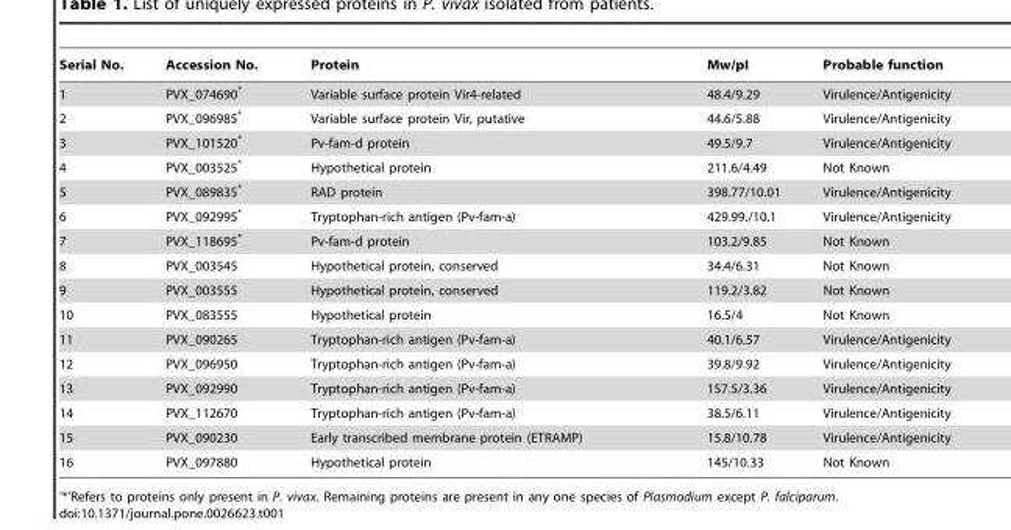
<table><thead><tr><td>Serial No.</td><td>Accession No.</td><td>Protein</td><td>Mw/pI</td><td>Probable function</td></tr></thead><tbody><tr><td>1</td><td>PVX_074690*</td><td>Variable surface protein Vir4-related</td><td>48.4/9.29</td><td>Virulence/Antigenicity</td></tr><tr><td>2</td><td>PVX_096985*</td><td>Variable surface protein Vir, putative</td><td>44.6/5.88</td><td>Virulence/Antigenicity</td></tr><tr><td>3</td><td>PVX_101520*</td><td>Pv-fam-d protein</td><td>49.5/9.7</td><td>Virulence/Antigenicity</td></tr><tr><td>4</td><td>PVX_003525*</td><td>Hypothetical protein</td><td>211.6/4.49</td><td>Not Known</td></tr><tr><td>5</td><td>PVX_089835*</td><td>RAD protein</td><td>398.77/10.01</td><td>Virulence/Antigenicity</td></tr><tr><td>6</td><td>PVX_092995*</td><td>Tryptophan-rich antigen (Pv-fam-a)</td><td>429.99./10.1</td><td>Virulence/Antigenicity</td></tr><tr><td>7</td><td>PVX_118695*</td><td>Pv-fam-d protein</td><td>103.2/9.85</td><td>Not Known</td></tr><tr><td>8</td><td>PVX_003545</td><td>Hypothetical protein, conserved</td><td>34.4/6.31</td><td>Not Known</td></tr><tr><td>9</td><td>PVX_003555</td><td>Hypothetical protein, conserved</td><td>119.2/3.82</td><td>Not Known</td></tr><tr><td>10</td><td>PVX_083555</td><td>Hypothetical protein</td><td>16.5/4</td><td>Not Known</td></tr><tr><td>11</td><td>PVX_090265</td><td>Tryptophan-rich antigen (Pv-fam-a)</td><td>40.1/6.57</td><td>Virulence/Antigenicity</td></tr><tr><td>12</td><td>PVX_096950</td><td>Tryptophan-rich antigen (Pv-fam-a)</td><td>39.8/9.92</td><td>Virulence/Antigenicity</td></tr><tr><td>13</td><td>PVX_092990</td><td>Tryptophan-rich antigen (Pv-fam-a)</td><td>157.5/3.36</td><td>Virulence/Antigenicity</td></tr><tr><td>14</td><td>PVX_112670</td><td>Tryptophan-rich antigen (Pv-fam-a)</td><td>38.5/6.11</td><td>Virulence/Antigenicity</td></tr><tr><td>15</td><td>PVX_090230</td><td>Early transcribed membrane protein (ETRAMP)</td><td>15.8/10.78</td><td>Virulence/Antigenicity</td></tr><tr><td>16</td><td>PVX_097880</td><td>Hypothetical protein</td><td>145/10.33</td><td>Not Known</td></tr></tbody></table>